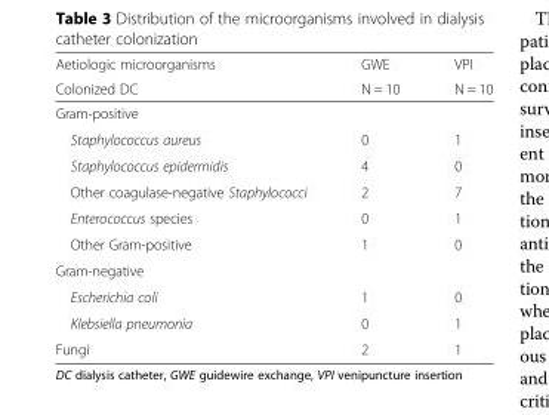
<table><thead><tr><td rowspan="2">Aetiologic microorganisms Colonized DC</td><td rowspan="2">GWE N = 10</td><td rowspan="2">VPI N = 10</td></tr><tr></tr></thead><tbody><tr><td colspan="3">Gram-positive</td></tr><tr><td>Staphylococcus aureus</td><td>0</td><td>1</td></tr><tr><td>Staphylococcus epidermidis</td><td>4</td><td>0</td></tr><tr><td>Other coagulase-negative Staphylococci</td><td>2</td><td>7</td></tr><tr><td>Enterococcus species</td><td>0</td><td>1</td></tr><tr><td>Other Gram-positive</td><td>1</td><td>0</td></tr><tr><td colspan="3">Gram-negative</td></tr><tr><td>Escherichia coli</td><td>1</td><td>0</td></tr><tr><td>Klebsiella pneumonia</td><td>0</td><td>1</td></tr><tr><td>Fungi</td><td>2</td><td>1</td></tr></tbody></table>